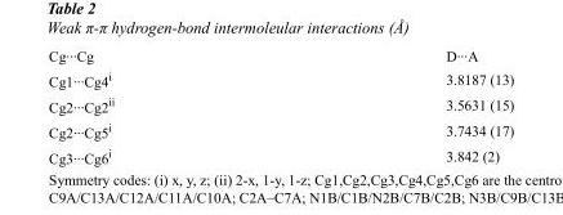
<table><tbody><tr><td>Cg···Cg</td><td>D···A</td></tr><tr><td>Cg1···Cg4<sup>i</sup></td><td>3.8187 (13)</td></tr><tr><td>Cg2···Cg2<sup>ii</sup></td><td>3.5631 (15)</td></tr><tr><td>Cg2···Cg5<sup>i</sup></td><td>3.7434 (17)</td></tr><tr><td>Cg3···Cg6<sup>i</sup></td><td>3.842 (2)</td></tr></tbody></table>